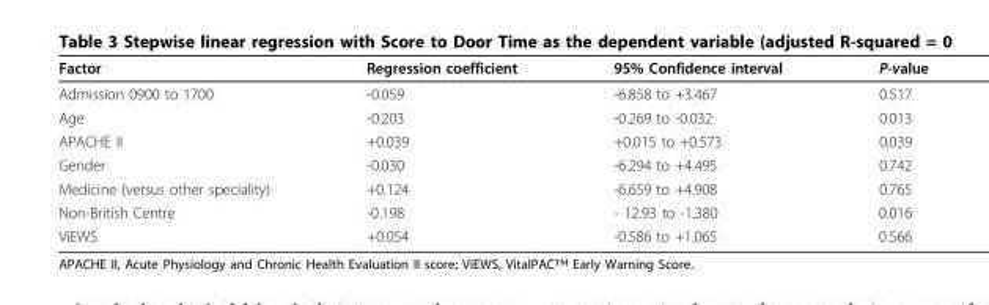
<table><thead><tr><td>Factor</td><td>Regression coefficient</td><td>95% Confidence interval</td><td>P-value</td></tr></thead><tbody><tr><td>Admission 0900 to 1700</td><td>-0.059</td><td>-6.858 to +3.467</td><td>0.517</td></tr><tr><td>Age</td><td>-0.203</td><td>-0.269 to -0.032</td><td>0.013</td></tr><tr><td>APACHE II</td><td>+0.039</td><td>+0.015 to +0.573</td><td>0.039</td></tr><tr><td>Gender</td><td>-0.030</td><td>-6.294 to +4.495</td><td>0.742</td></tr><tr><td>Medicine (versus other speciality)</td><td>+0.124</td><td>-6.659 to +4.908</td><td>0.765</td></tr><tr><td>Non-British Centre</td><td>-0.198</td><td>- 12.93 to -1.380</td><td>0.016</td></tr><tr><td>ViEWS</td><td>+0.054</td><td>-0.586 to +1.065</td><td>0.566</td></tr></tbody></table>